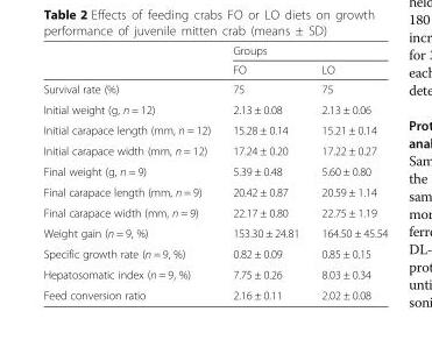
<table><thead><tr><td rowspan="2"></td><td colspan="2">Groups</td></tr><tr><td>FO</td><td>LO</td></tr></thead><tbody><tr><td>Survival rate (%)</td><td>75</td><td>75</td></tr><tr><td>Initial weight (g, n = 12)</td><td>2.13 ± 0.08</td><td>2.13 ± 0.06</td></tr><tr><td>Initial carapace length (mm, n = 12)</td><td>15.28 ± 0.14</td><td>15.21 ± 0.14</td></tr><tr><td>Initial carapace width (mm, n = 12)</td><td>17.24 ± 0.20</td><td>17.22 ± 0.27</td></tr><tr><td>Final weight (g, n = 9)</td><td>5.39 ± 0.48</td><td>5.60 ± 0.80</td></tr><tr><td>Final carapace length (mm, n = 9)</td><td>20.42 ± 0.87</td><td>20.59 ± 1.14</td></tr><tr><td>Final carapace width (mm, n = 9)</td><td>22.17 ± 0.80</td><td>22.75 ± 1.19</td></tr><tr><td>Weight gain (n = 9, %)</td><td>153.30 ± 24.81</td><td>164.50 ± 45.54</td></tr><tr><td>Specific growth rate (n = 9, %)</td><td>0.82 ± 0.09</td><td>0.85 ± 0.15</td></tr><tr><td>Hepatosomatic index (n = 9, %)</td><td>7.75 ± 0.26</td><td>8.03 ± 0.34</td></tr><tr><td>Feed conversion ratio</td><td>2.16 ± 0.11</td><td>2.02 ± 0.08</td></tr></tbody></table>